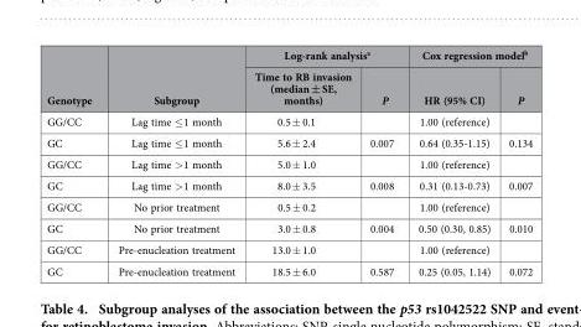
<table><thead><tr><td rowspan="2">Genotype</td><td rowspan="2">Subgroup</td><td colspan="2">Log-rank analysis<sup>a</sup></td><td colspan="2">Cox regression model<sup>b</sup></td></tr><tr><td>Time to RB invasion (median ± SE, months)</td><td>P</td><td>HR (95% CI)</td><td>P</td></tr></thead><tbody><tr><td>GG/CC</td><td>Lag time ≤ 1 month</td><td>0.5 ± 0.1</td><td></td><td>1.00 (reference)</td><td></td></tr><tr><td>GC</td><td>Lag time ≤ 1 month</td><td>5.6 ± 2.4</td><td>0.007</td><td>0.64 (0.35-1.15)</td><td>0.134</td></tr><tr><td>GG/CC</td><td>Lag time &gt; 1 month</td><td>5.0 ± 1.0</td><td></td><td>1.00 (reference)</td><td></td></tr><tr><td>GC</td><td>Lag time &gt; 1 month</td><td>8.0 ± 3.5</td><td>0.008</td><td>0.31 (0.13-0.73)</td><td>0.007</td></tr><tr><td>GG/CC</td><td>No prior treatment</td><td>0.5 ± 0.2</td><td></td><td>1.00 (reference)</td><td></td></tr><tr><td>GC</td><td>No prior treatment</td><td>3.0 ± 0.8</td><td>0.004</td><td>0.50 (0.30, 0.85)</td><td>0.010</td></tr><tr><td>GG/CC</td><td>Pre-enucleation treatment</td><td>13.0 ± 1.0</td><td></td><td>1.00 (reference)</td><td></td></tr><tr><td>GC</td><td>Pre-enucleation treatment</td><td>18.5 ± 6.0</td><td>0.587</td><td>0.25 (0.05, 1.14)</td><td>0.072</td></tr></tbody></table>